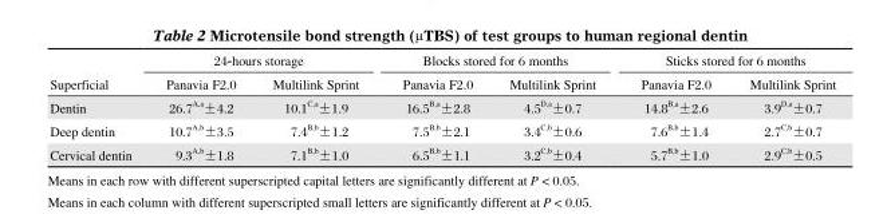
<table><thead><tr><td rowspan="2">Superficial</td><td colspan="2">24-hours storage</td><td colspan="2">Blocks stored for 6 months</td><td colspan="2">Sticks stored for 6 months</td></tr><tr><td>Panavia F2.0</td><td>Multilink Sprint</td><td>Panavia F2.0</td><td>Multilink Sprint</td><td>Panavia F2.0</td><td>Multilink Sprint</td></tr></thead><tbody><tr><td>Dentin</td><td>26.7 <sup>A,a</sup>±4.2</td><td>10.1 <sup>C,a</sup>±1.9</td><td>16.5 <sup>B,a</sup>±2.8</td><td>4.5 <sup>D,a</sup>±0.7</td><td>14.8 <sup>B,a</sup>±2.6</td><td>3.9 <sup>D,a</sup>±0.7</td></tr><tr><td>Deep dentin</td><td>10.7 <sup>A,b</sup>±3.5</td><td>07.4 <sup>B,b</sup>±1.2</td><td>07.5 <sup>B,b</sup>±2.1</td><td>3.4 <sup>C,b</sup>±0.6</td><td>07.6 <sup>B,b</sup>±1.4</td><td>2.7 <sup>C,b</sup>±0.7</td></tr><tr><td>Cervical dentin</td><td>09.3 <sup>A,b</sup>±1.8</td><td>07.1 <sup>B,b</sup>±1.0</td><td>06.5 <sup>B,b</sup>±1.1</td><td>3.2 <sup>C,b</sup>±0.4</td><td>05.7 <sup>B,b</sup>±1.0</td><td>2.9 <sup>C,b</sup>±0.5</td></tr></tbody></table>